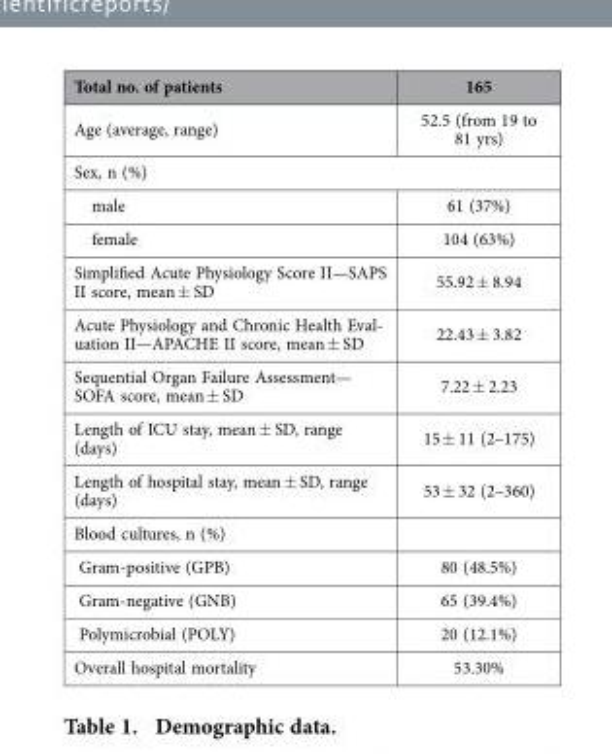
<table><thead><tr><td>Total no. of patients</td><td>165</td></tr></thead><tbody><tr><td>Age (average, range)</td><td>52.5 (from 19 to 81 yrs)</td></tr><tr><td colspan="2">Sex, n (%)</td></tr><tr><td>male</td><td>61 (37%)</td></tr><tr><td>female</td><td>104 (63%)</td></tr><tr><td>Simplified Acute Physiology Score II—SAPS II score, mean ± SD</td><td>55.92 ± 8.94</td></tr><tr><td>Acute Physiology and Chronic Health Eval- uation II—APACHE II score, mean ± SD</td><td>22.43 ± 3.82</td></tr><tr><td>Sequential Organ Failure Assessment— SOFA score, mean ± SD</td><td>7.22 ± 2.23</td></tr><tr><td>Length of ICU stay, mean ± SD, range (days)</td><td>15 ± 11 (2–175)</td></tr><tr><td>Length of hospital stay, mean ± SD, range (days)</td><td>53 ± 32 (2–360)</td></tr><tr><td colspan="2">Blood cultures, n (%)</td></tr><tr><td>Gram-positive (GPB)</td><td>80 (48.5%)</td></tr><tr><td>Gram-negative (GNB)</td><td>65 (39.4%)</td></tr><tr><td>Polymicrobial (POLY)</td><td>20 (12.1%)</td></tr><tr><td>Overall hospital mortality</td><td>53.30%</td></tr></tbody></table>